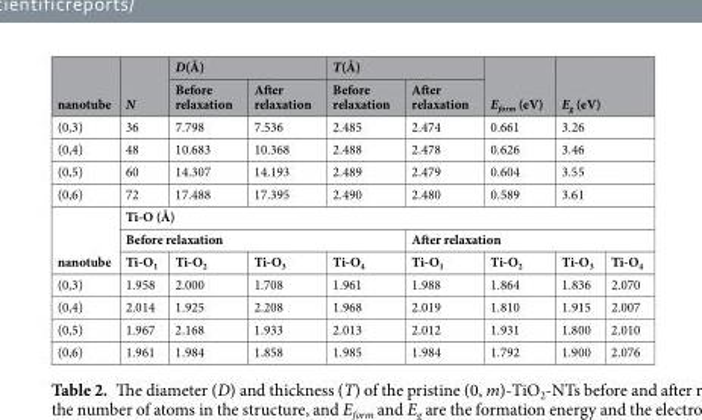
<table><thead><tr><td rowspan="2">nanotube</td><td rowspan="2">N</td><td colspan="2">D(Å)</td><td colspan="2">T(Å)</td><td rowspan="2">E<sub>form</sub> (eV)</td><td rowspan="2" colspan="2">E<sub>g</sub> (eV)</td></tr><tr><td>Before relaxation</td><td>After relaxation</td><td>Before relaxation</td><td>After relaxation</td></tr></thead><tbody><tr><td>(0,3)</td><td>36</td><td>7.798</td><td>7.536</td><td>2.485</td><td>2.474</td><td>0.661</td><td colspan="2">3.26</td></tr><tr><td>(0,4)</td><td>48</td><td>10.683</td><td>10.368</td><td>2.488</td><td>2.478</td><td>0.626</td><td colspan="2">3.46</td></tr><tr><td>(0,5)</td><td>60</td><td>14.307</td><td>14.193</td><td>2.489</td><td>2.479</td><td>0.604</td><td colspan="2">3.55</td></tr><tr><td>(0,6)</td><td>72</td><td>17.488</td><td>17.395</td><td>2.490</td><td>2.480</td><td>0.589</td><td colspan="2">3.61</td></tr><tr><td rowspan="3">nanotube</td><td colspan="8">Ti-O (Å)</td></tr><tr><td colspan="4">Before relaxation</td><td colspan="4">After relaxation</td></tr><tr><td>Ti-O<sub>1</sub></td><td>Ti-O<sub>2</sub></td><td>Ti-O<sub>3</sub></td><td>Ti-O<sub>4</sub></td><td>Ti-O<sub>1</sub></td><td>Ti-O<sub>2</sub></td><td>Ti-O<sub>3</sub></td><td>Ti-O<sub>4</sub></td></tr><tr><td>(0,3)</td><td>1.958</td><td>2.000</td><td>1.708</td><td>1.961</td><td>1.988</td><td>1.864</td><td>1.836</td><td>2.070</td></tr><tr><td>(0,4)</td><td>2.014</td><td>1.925</td><td>2.208</td><td>1.968</td><td>2.019</td><td>1.810</td><td>1.915</td><td>2.007</td></tr><tr><td>(0,5)</td><td>1.967</td><td>2.168</td><td>1.933</td><td>2.013</td><td>2.012</td><td>1.931</td><td>1.800</td><td>2.010</td></tr><tr><td>(0,6)</td><td>1.961</td><td>1.984</td><td>1.858</td><td>1.985</td><td>1.984</td><td>1.792</td><td>1.900</td><td>2.076</td></tr></tbody></table>